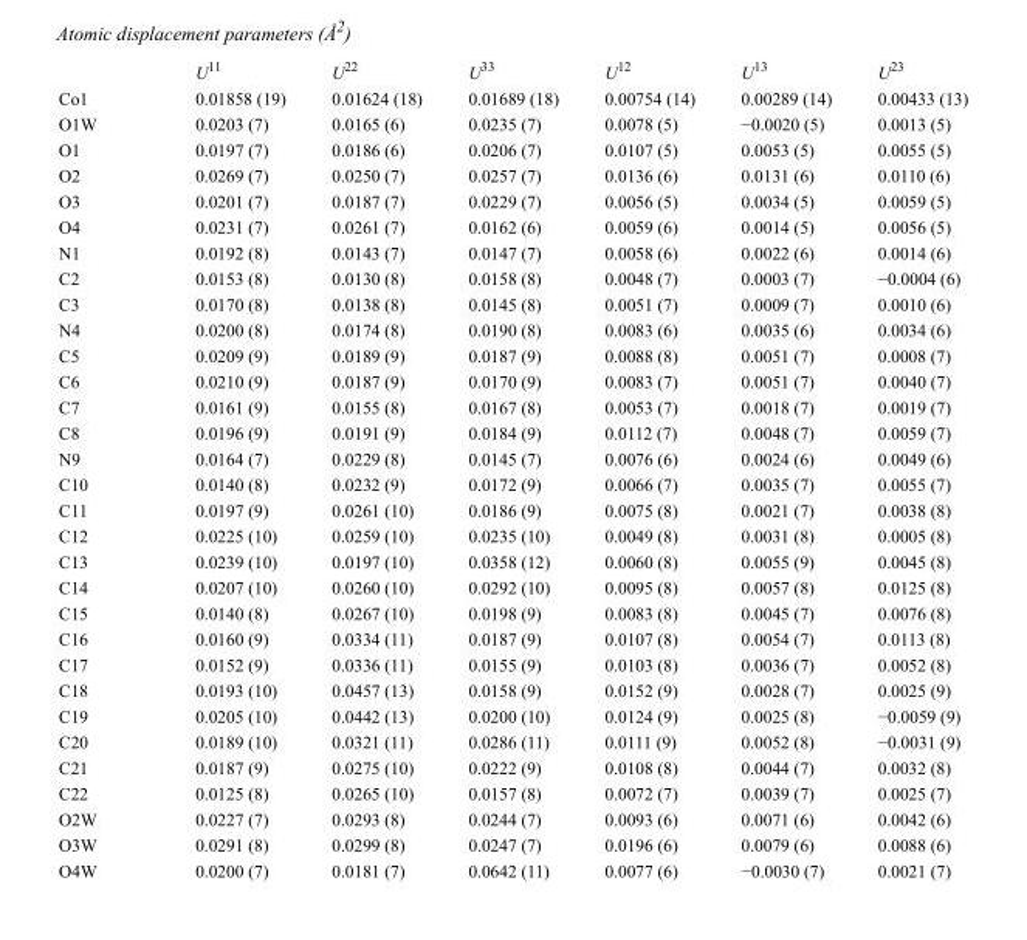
<table><thead><tr><td></td><td>U<sup>11</sup></td><td>U<sup>22</sup></td><td>U<sup>33</sup></td><td>U<sup>12</sup></td><td>U<sup>13</sup></td><td>U<sup>23</sup></td></tr></thead><tbody><tr><td>Co1</td><td>0.01858 (19)</td><td>0.01624 (18)</td><td>0.01689 (18)</td><td>0.00754 (14)</td><td>0.00289 (14)</td><td>0.00433 (13)</td></tr><tr><td>O1W</td><td>0.0203 (7)</td><td>0.0165 (6)</td><td>0.0235 (7)</td><td>0.0078 (5)</td><td>−0.0020 (5)</td><td>0.0013 (5)</td></tr><tr><td>O1</td><td>0.0197 (7)</td><td>0.0186 (6)</td><td>0.0206 (7)</td><td>0.0107 (5)</td><td>0.0053 (5)</td><td>0.0055 (5)</td></tr><tr><td>O2</td><td>0.0269 (7)</td><td>0.0250 (7)</td><td>0.0257 (7)</td><td>0.0136 (6)</td><td>0.0131 (6)</td><td>0.0110 (6)</td></tr><tr><td>O3</td><td>0.0201 (7)</td><td>0.0187 (7)</td><td>0.0229 (7)</td><td>0.0056 (5)</td><td>0.0034 (5)</td><td>0.0059 (5)</td></tr><tr><td>O4</td><td>0.0231 (7)</td><td>0.0261 (7)</td><td>0.0162 (6)</td><td>0.0059 (6)</td><td>0.0014 (5)</td><td>0.0056 (5)</td></tr><tr><td>N1</td><td>0.0192 (8)</td><td>0.0143 (7)</td><td>0.0147 (7)</td><td>0.0058 (6)</td><td>0.0022 (6)</td><td>0.0014 (6)</td></tr><tr><td>C2</td><td>0.0153 (8)</td><td>0.0130 (8)</td><td>0.0158 (8)</td><td>0.0048 (7)</td><td>0.0003 (7)</td><td>−0.0004 (6)</td></tr><tr><td>C3</td><td>0.0170 (8)</td><td>0.0138 (8)</td><td>0.0145 (8)</td><td>0.0051 (7)</td><td>0.0009 (7)</td><td>0.0010 (6)</td></tr><tr><td>N4</td><td>0.0200 (8)</td><td>0.0174 (8)</td><td>0.0190 (8)</td><td>0.0083 (6)</td><td>0.0035 (6)</td><td>0.0034 (6)</td></tr><tr><td>C5</td><td>0.0209 (9)</td><td>0.0189 (9)</td><td>0.0187 (9)</td><td>0.0088 (8)</td><td>0.0051 (7)</td><td>0.0008 (7)</td></tr><tr><td>C6</td><td>0.0210 (9)</td><td>0.0187 (9)</td><td>0.0170 (9)</td><td>0.0083 (7)</td><td>0.0051 (7)</td><td>0.0040 (7)</td></tr><tr><td>C7</td><td>0.0161 (9)</td><td>0.0155 (8)</td><td>0.0167 (8)</td><td>0.0053 (7)</td><td>0.0018 (7)</td><td>0.0019 (7)</td></tr><tr><td>C8</td><td>0.0196 (9)</td><td>0.0191 (9)</td><td>0.0184 (9)</td><td>0.0112 (7)</td><td>0.0048 (7)</td><td>0.0059 (7)</td></tr><tr><td>N9</td><td>0.0164 (7)</td><td>0.0229 (8)</td><td>0.0145 (7)</td><td>0.0076 (6)</td><td>0.0024 (6)</td><td>0.0049 (6)</td></tr><tr><td>C10</td><td>0.0140 (8)</td><td>0.0232 (9)</td><td>0.0172 (9)</td><td>0.0066 (7)</td><td>0.0035 (7)</td><td>0.0055 (7)</td></tr><tr><td>C11</td><td>0.0197 (9)</td><td>0.0261 (10)</td><td>0.0186 (9)</td><td>0.0075 (8)</td><td>0.0021 (7)</td><td>0.0038 (8)</td></tr><tr><td>C12</td><td>0.0225 (10)</td><td>0.0259 (10)</td><td>0.0235 (10)</td><td>0.0049 (8)</td><td>0.0031 (8)</td><td>0.0005 (8)</td></tr><tr><td>C13</td><td>0.0239 (10)</td><td>0.0197 (10)</td><td>0.0358 (12)</td><td>0.0060 (8)</td><td>0.0055 (9)</td><td>0.0045 (8)</td></tr><tr><td>C14</td><td>0.0207 (10)</td><td>0.0260 (10)</td><td>0.0292 (10)</td><td>0.0095 (8)</td><td>0.0057 (8)</td><td>0.0125 (8)</td></tr><tr><td>C15</td><td>0.0140 (8)</td><td>0.0267 (10)</td><td>0.0198 (9)</td><td>0.0083 (8)</td><td>0.0045 (7)</td><td>0.0076 (8)</td></tr><tr><td>C16</td><td>0.0160 (9)</td><td>0.0334 (11)</td><td>0.0187 (9)</td><td>0.0107 (8)</td><td>0.0054 (7)</td><td>0.0113 (8)</td></tr><tr><td>C17</td><td>0.0152 (9)</td><td>0.0336 (11)</td><td>0.0155 (9)</td><td>0.0103 (8)</td><td>0.0036 (7)</td><td>0.0052 (8)</td></tr><tr><td>C18</td><td>0.0193 (10)</td><td>0.0457 (13)</td><td>0.0158 (9)</td><td>0.0152 (9)</td><td>0.0028 (7)</td><td>0.0025 (9)</td></tr><tr><td>C19</td><td>0.0205 (10)</td><td>0.0442 (13)</td><td>0.0200 (10)</td><td>0.0124 (9)</td><td>0.0025 (8)</td><td>−0.0059 (9)</td></tr><tr><td>C20</td><td>0.0189 (10)</td><td>0.0321 (11)</td><td>0.0286 (11)</td><td>0.0111 (9)</td><td>0.0052 (8)</td><td>−0.0031 (9)</td></tr><tr><td>C21</td><td>0.0187 (9)</td><td>0.0275 (10)</td><td>0.0222 (9)</td><td>0.0108 (8)</td><td>0.0044 (7)</td><td>0.0032 (8)</td></tr><tr><td>C22</td><td>0.0125 (8)</td><td>0.0265 (10)</td><td>0.0157 (8)</td><td>0.0072 (7)</td><td>0.0039 (7)</td><td>0.0025 (7)</td></tr><tr><td>O2W</td><td>0.0227 (7)</td><td>0.0293 (8)</td><td>0.0244 (7)</td><td>0.0093 (6)</td><td>0.0071 (6)</td><td>0.0042 (6)</td></tr><tr><td>O3W</td><td>0.0291 (8)</td><td>0.0299 (8)</td><td>0.0247 (7)</td><td>0.0196 (6)</td><td>0.0079 (6)</td><td>0.0088 (6)</td></tr><tr><td>O4W</td><td>0.0200 (7)</td><td>0.0181 (7)</td><td>0.0642 (11)</td><td>0.0077 (6)</td><td>−0.0030 (7)</td><td>0.0021 (7)</td></tr></tbody></table>